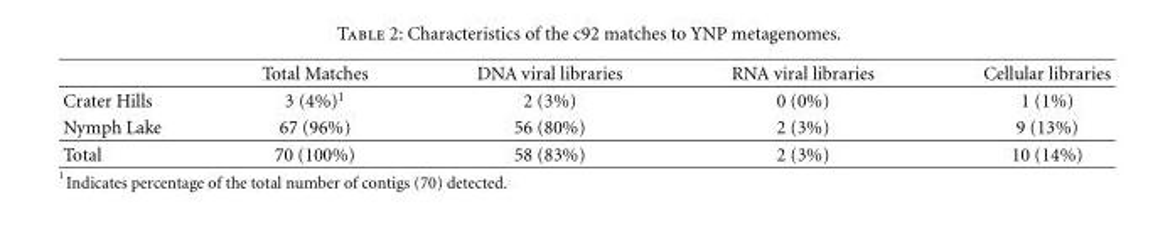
<table><thead><tr><td></td><td>Total Matches</td><td>DNA viral libraries</td><td>RNA viral libraries</td><td>Cellular libraries</td></tr></thead><tbody><tr><td>Crater Hills</td><td>3 (4%)<sup>1</sup></td><td>2 (3%)</td><td>0 (0%)</td><td>1 (1%)</td></tr><tr><td>Nymph Lake</td><td>67 (96%)</td><td>56 (80%)</td><td>2 (3%)</td><td>9 (13%)</td></tr><tr><td>Total</td><td>70 (100%)</td><td>58 (83%)</td><td>2 (3%)</td><td>10 (14%)</td></tr></tbody></table>